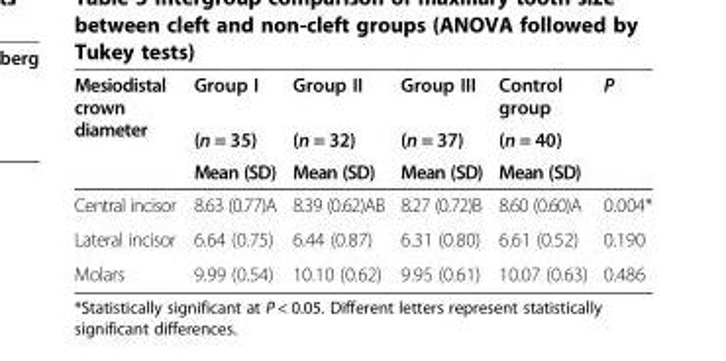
<table><thead><tr><td rowspan="3">Mesiodistal crown diameter</td><td rowspan="3">Group I (n = 35) Mean (SD)</td><td rowspan="3">Group II (n = 32) Mean (SD)</td><td rowspan="3">Group III (n = 37) Mean (SD)</td><td rowspan="3">Control group (n = 40) Mean (SD)</td><td rowspan="3">P</td></tr><tr></tr><tr></tr></thead><tbody><tr><td>Central incisor</td><td>8.63 (0.77)A</td><td>8.39 (0.62)AB</td><td>8.27 (0.72)B</td><td>8.60 (0.60)A</td><td>0.004*</td></tr><tr><td>Lateral incisor</td><td>6.64 (0.75)</td><td>6.44 (0.87)</td><td>6.31 (0.80)</td><td>6.61 (0.52)</td><td>0.190</td></tr><tr><td>Molars</td><td>9.99 (0.54)</td><td>10.10 (0.62)</td><td>9.95 (0.61)</td><td>10.07 (0.63)</td><td>0.486</td></tr></tbody></table>